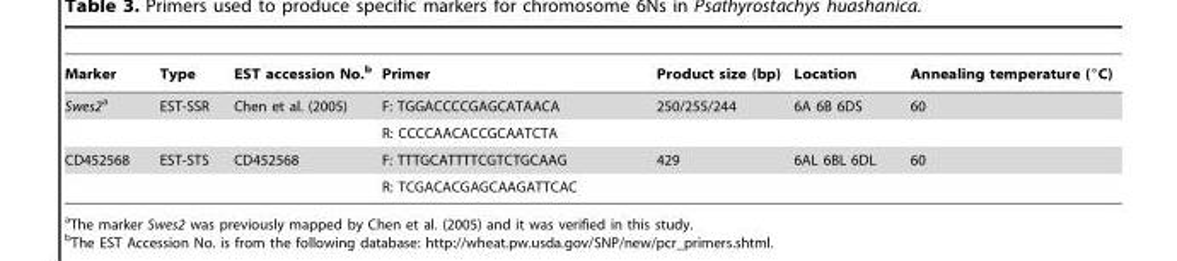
<table><thead><tr><td>Marker</td><td>Type</td><td>EST accession No.<sup>b</sup></td><td>Primer</td><td>Product size (bp)</td><td>Location</td><td>Annealing temperature (°C)</td></tr></thead><tbody><tr><td rowspan="2">Swes2a</td><td>EST-SSR</td><td>Chen et al. (2005)</td><td>F: TGGACCCCGAGCATAACA</td><td>250/255/244</td><td>6A 6B 6DS</td><td>60</td></tr><tr><td></td><td></td><td>R: CCCCAACACCGCAATCTA</td><td></td><td></td><td></td></tr><tr><td rowspan="2">CD452568</td><td>EST-STS</td><td>CD452568</td><td>F: TTTGCATTTTCGTCTGCAAG</td><td>429</td><td>6AL 6BL 6DL</td><td>60</td></tr><tr><td></td><td></td><td>R: TCGACACGAGCAAGATTCAC</td><td></td><td></td><td></td></tr></tbody></table>